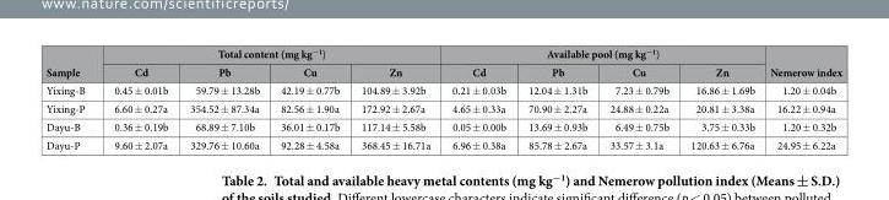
<table><thead><tr><td rowspan="2">Sample</td><td colspan="4">Total content (mg kg<sup>−1</sup>)</td><td colspan="4">Available pool (mg kg<sup>−1</sup>)</td><td rowspan="2">Nemerow index</td></tr><tr><td>Cd</td><td>Pb</td><td>Cu</td><td>Zn</td><td>Cd</td><td>Pb</td><td>Cu</td><td>Zn</td></tr></thead><tbody><tr><td>Yixing-B</td><td>0.45 ± 0.01b</td><td>59.79 ± 13.28b</td><td>42.19 ± 0.77b</td><td>104.89 ± 3.92b</td><td>0.21 ± 0.03b</td><td>12.04 ± 1.31b</td><td>7.23 ± 0.79b</td><td>16.86 ± 1.69b</td><td>1.20 ± 0.04b</td></tr><tr><td>Yixing-P</td><td>6.60 ± 0.27a</td><td>354.52 ± 87.34a</td><td>82.56 ± 1.90a</td><td>172.92 ± 2.67a</td><td>4.65 ± 0.33a</td><td>70.90 ± 2.27a</td><td>24.88 ± 0.22a</td><td>20.81 ± 3.38a</td><td>16.22 ± 0.94a</td></tr><tr><td>Dayu-B</td><td>0.36 ± 0.19b</td><td>68.89 ± 7.10b</td><td>36.01 ± 0.17b</td><td>117.14 ± 5.58b</td><td>0.05 ± 0.00b</td><td>13.69 ± 0.93b</td><td>6.49 ± 0.75b</td><td>3.75 ± 0.33b</td><td>1.20 ± 0.32b</td></tr><tr><td>Dayu-P</td><td>9.60 ± 2.07a</td><td>329.76 ± 10.60a</td><td>92.28 ± 4.58a</td><td>368.45 ± 16.71a</td><td>6.96 ± 0.38a</td><td>85.78 ± 2.67a</td><td>33.57 ± 3.1a</td><td>120.63 ± 6.76a</td><td>24.95 ± 6.22a</td></tr></tbody></table>